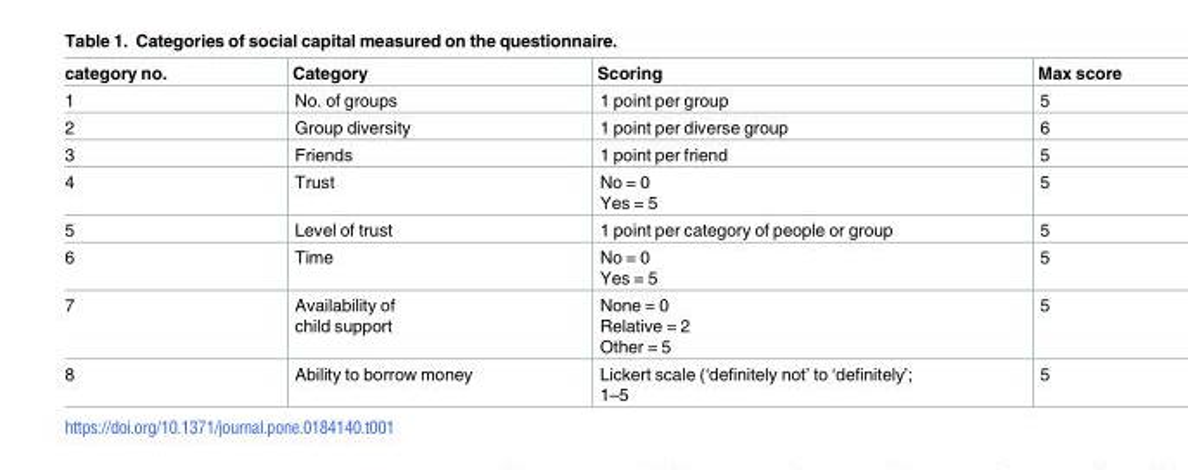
<table><thead><tr><td>category no.</td><td>Category</td><td>Scoring</td><td>Max score</td></tr></thead><tbody><tr><td>1</td><td>No. of groups</td><td>1 point per group</td><td>5</td></tr><tr><td>2</td><td>Group diversity</td><td>1 point per diverse group</td><td>6</td></tr><tr><td>3</td><td>Friends</td><td>1 point per friend</td><td>5</td></tr><tr><td>4</td><td>Trust</td><td>No = 0 Yes = 5</td><td>5</td></tr><tr><td>5</td><td>Level of trust</td><td>1 point per category of people or group</td><td>5</td></tr><tr><td>6</td><td>Time</td><td>No = 0 Yes = 5</td><td>5</td></tr><tr><td>7</td><td>Availability of child support</td><td>None = 0 Relative = 2 Other = 5</td><td>5</td></tr><tr><td>8</td><td>Ability to borrow money</td><td>Lickert scale (‘definitely not’ to ‘definitely’; 1–5</td><td>5</td></tr></tbody></table>